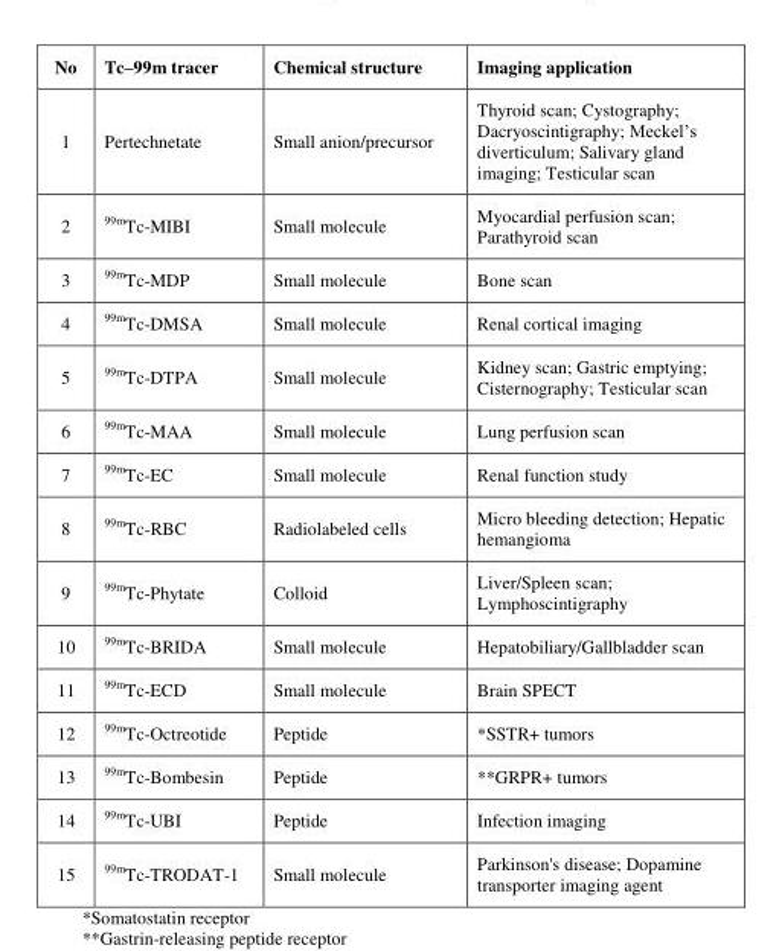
<table><thead><tr><td>No</td><td>Tc–99m tracer</td><td>Chemical structure</td><td>Imaging application</td></tr></thead><tbody><tr><td>1</td><td>Pertechnetate</td><td>Small anion/precursor</td><td>Thyroid scan; Cystography; Dacryoscintigraphy; Meckel’s diverticulum; Salivary gland imaging; Testicular scan</td></tr><tr><td>2</td><td><sup>99m</sup>Tc-MIBI</td><td>Small molecule</td><td>Myocardial perfusion scan; Parathyroid scan</td></tr><tr><td>3</td><td><sup>99m</sup>Tc-MDP</td><td>Small molecule</td><td>Bone scan</td></tr><tr><td>4</td><td><sup>99m</sup>Tc-DMSA</td><td>Small molecule</td><td>Renal cortical imaging</td></tr><tr><td>5</td><td><sup>99m</sup>Tc-DTPA</td><td>Small molecule</td><td>Kidney scan; Gastric emptying; Cisternography; Testicular scan</td></tr><tr><td>6</td><td><sup>99m</sup>Tc-MAA</td><td>Small molecule</td><td>Lung perfusion scan</td></tr><tr><td>7</td><td><sup>99m</sup>Tc-EC</td><td>Small molecule</td><td>Renal function study</td></tr><tr><td>8</td><td><sup>99m</sup>Tc-RBC</td><td>Radiolabeled cells</td><td>Micro bleeding detection; Hepatic hemangioma</td></tr><tr><td>9</td><td><sup>99m</sup>Tc-Phytate</td><td>Colloid</td><td>Liver/Spleen scan; Lymphoscintigraphy</td></tr><tr><td>10</td><td><sup>99m</sup>Tc-BRIDA</td><td>Small molecule</td><td>Hepatobiliary/Gallbladder scan</td></tr><tr><td>11</td><td><sup>99m</sup>Tc-ECD</td><td>Small molecule</td><td>Brain SPECT</td></tr><tr><td>12</td><td><sup>99m</sup>Tc-Octreotide</td><td>Peptide</td><td>*SSTR+ tumors</td></tr><tr><td>13</td><td><sup>99m</sup>Tc-Bombesin</td><td>Peptide</td><td>**GRPR+ tumors</td></tr><tr><td>14</td><td><sup>99m</sup>Tc-UBI</td><td>Peptide</td><td>Infection imaging</td></tr><tr><td>15</td><td><sup>99m</sup>Tc-TRODAT-1</td><td>Small molecule</td><td>Parkinson&#x27;s disease; Dopamine transporter imaging agent</td></tr></tbody></table>